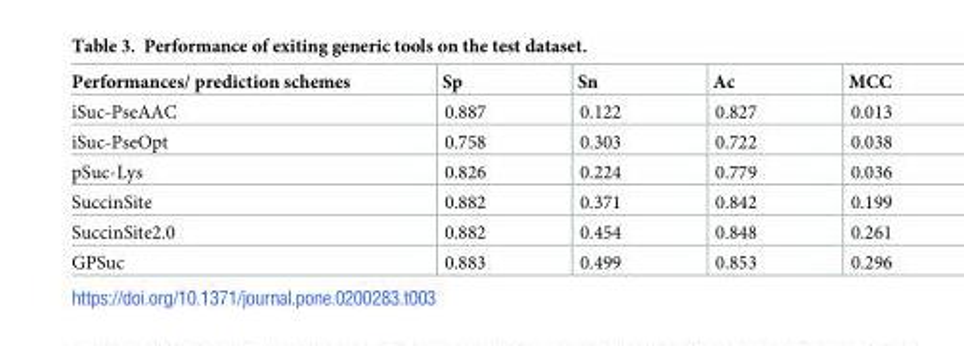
<table><thead><tr><td>Performances/ prediction schemes</td><td>Sp</td><td>Sn</td><td>Ac</td><td>MCC</td></tr></thead><tbody><tr><td>iSuc-PseAAC</td><td>0.887</td><td>0.122</td><td>0.827</td><td>0.013</td></tr><tr><td>iSuc-PseOpt</td><td>0.758</td><td>0.303</td><td>0.722</td><td>0.038</td></tr><tr><td>pSuc-Lys</td><td>0.826</td><td>0.224</td><td>0.779</td><td>0.036</td></tr><tr><td>SuccinSite</td><td>0.882</td><td>0.371</td><td>0.842</td><td>0.199</td></tr><tr><td>SuccinSite2.0</td><td>0.882</td><td>0.454</td><td>0.848</td><td>0.261</td></tr><tr><td>GPSuc</td><td>0.883</td><td>0.499</td><td>0.853</td><td>0.296</td></tr></tbody></table>